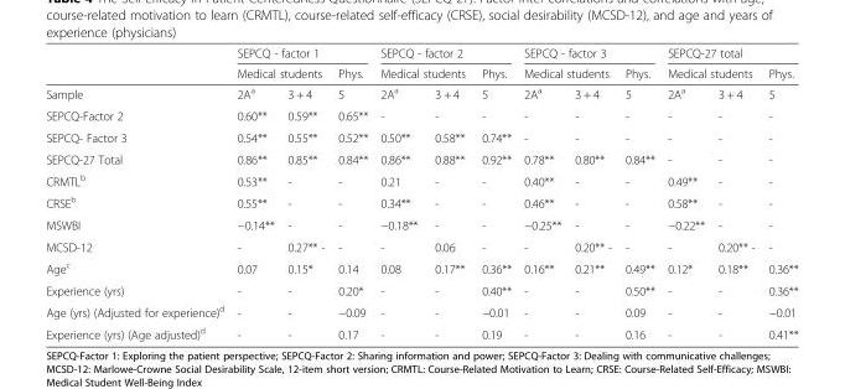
<table><thead><tr><td rowspan="3">Sample</td><td colspan="3">SEPCQ - factor 1</td><td colspan="3">SEPCQ - factor 2</td><td colspan="3">SEPCQ - factor 3</td><td colspan="3">SEPCQ-27 total</td></tr><tr><td colspan="2">Medical students</td><td rowspan="2">Phys. 5</td><td colspan="2">Medical students</td><td rowspan="2">Phys. 5</td><td colspan="2">Medical students</td><td rowspan="2">Phys. 5</td><td colspan="2">Medical students</td><td rowspan="2">Phys. 5</td></tr><tr><td>2A<sup>a</sup></td><td>3 + 4</td><td>2A<sup>a</sup></td><td>3 + 4</td><td>2A<sup>a</sup></td><td>3 + 4</td><td>2A<sup>a</sup></td><td>3 + 4</td></tr></thead><tbody><tr><td>SEPCQ-Factor 2</td><td>0.60**</td><td>0.59**</td><td>0.65**</td><td>-</td><td>-</td><td>-</td><td>-</td><td>-</td><td>-</td><td>-</td><td>-</td><td>-</td></tr><tr><td>SEPCQ- Factor 3</td><td>0.54**</td><td>0.55**</td><td>0.52**</td><td>0.50**</td><td>0.58**</td><td>0.74**</td><td>-</td><td>-</td><td>-</td><td>-</td><td>-</td><td>-</td></tr><tr><td>SEPCQ-27 Total</td><td>0.86**</td><td>0.85**</td><td>0.84**</td><td>0.86**</td><td>0.88**</td><td>0.92**</td><td>0.78**</td><td>0.80**</td><td>0.84**</td><td>-</td><td>-</td><td>-</td></tr><tr><td>CRMTL<sup>b</sup></td><td>0.53**</td><td>-</td><td>-</td><td>0.21</td><td>-</td><td>-</td><td>0.40**</td><td>-</td><td>-</td><td>0.49**</td><td>-</td><td>-</td></tr><tr><td>CRSE<sup>b</sup></td><td>0.55**</td><td>-</td><td>-</td><td>0.34**</td><td>-</td><td>-</td><td>0.46**</td><td>-</td><td>-</td><td>0.58**</td><td>-</td><td>-</td></tr><tr><td>MSWBI</td><td>−0.14**</td><td>-</td><td>-</td><td>−0.18**</td><td>-</td><td>-</td><td>−0.25**</td><td>-</td><td>-</td><td>−0.22**</td><td>-</td><td>-</td></tr><tr><td>MCSD-12</td><td>-</td><td>0.27** -</td><td>-</td><td>-</td><td>0.06</td><td>-</td><td>-</td><td>0.20** -</td><td>-</td><td>-</td><td>0.20** -</td><td>-</td></tr><tr><td>Age<sup>c</sup></td><td>0.07</td><td>0.15*</td><td>0.14</td><td>0.08</td><td>0.17**</td><td>0.36**</td><td>0.16**</td><td>0.21**</td><td>0.49**</td><td>0.12*</td><td>0.18**</td><td>0.36**</td></tr><tr><td>Experience (yrs)</td><td>-</td><td>-</td><td>0.20*</td><td>-</td><td>-</td><td>0.40**</td><td>-</td><td>-</td><td>0.50**</td><td>-</td><td>-</td><td>0.36**</td></tr><tr><td>Age (yrs) (Adjusted for experience)<sup>d</sup></td><td>-</td><td>-</td><td>−0.09</td><td>-</td><td>-</td><td>−0.01</td><td>-</td><td>-</td><td>0.09</td><td>-</td><td>-</td><td>−0.01</td></tr><tr><td>Experience (yrs) (Age adjusted)<sup>d</sup></td><td>-</td><td>-</td><td>0.17</td><td>-</td><td>-</td><td>0.19</td><td>-</td><td>-</td><td>0.16</td><td>-</td><td>-</td><td>0.41**</td></tr></tbody></table>